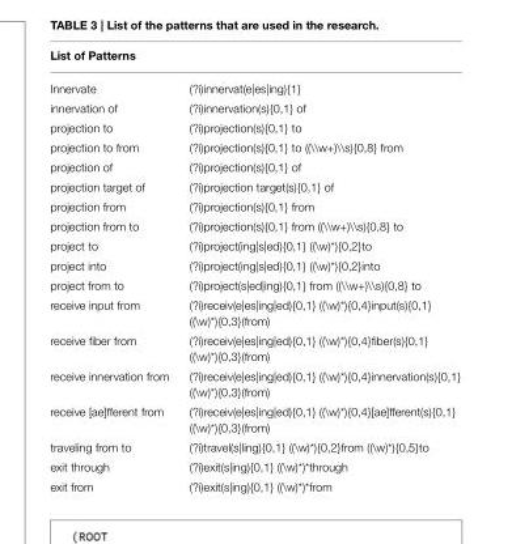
<table><thead><tr><td colspan="2">List of Patterns</td></tr><tr><td>Innervate</td><td>(?i)innervat(e|es|ing){1}</td></tr></thead><tbody><tr><td>innervation of</td><td>(?i)innervation(s){0,1} of</td></tr><tr><td>projection to</td><td>(?i)projection(s){0,1} to</td></tr><tr><td>projection to from</td><td>(?i)projection(s){0,1} to ((\\w+)\\s){0,8} from</td></tr><tr><td>projection of</td><td>(?i)projection(s){0,1} of</td></tr><tr><td>projection target of</td><td>(?i)projection target(s){0,1} of</td></tr><tr><td>projection from</td><td>(?i)projection(s){0,1} from</td></tr><tr><td>projection from to</td><td>(?i)projection(s){0,1} from ((\\w+)\\s){0,8} to</td></tr><tr><td>project to</td><td>(?i)project(ing|s|ed){0,1} ((\w)*){0,2}to</td></tr><tr><td>project into</td><td>(?i)project(ing|s|ed){0,1} ((\w)*){0,2}into</td></tr><tr><td>project from to</td><td>(?i)project(s|ed|ing){0,1} from ((\\w+)\\s){0,8} to</td></tr><tr><td>receive input from</td><td>(?i)receiv(e|es|ing|ed){0,1} ((\w)*){0,4}input(s){0,1} ((\w)*){0,3}(from)</td></tr><tr><td>receive fiber from</td><td>(?i)receiv(e|es|ing|ed){0,1} ((\w)*){0,4}fiber(s){0,1} ((\w)*){0,3}(from)</td></tr><tr><td>receive innervation from</td><td>(?i)receiv(e|es|ing|ed){0,1} ((\w)*){0,4}innervation(s){0,1} ((\w)*){0,3}(from)</td></tr><tr><td>receive [ae]fferent from</td><td>(?i)receiv(e|es|ing|ed){0,1} ((\w)*){0,4}[ae]fferent(s){0,1} ((\w)*){0,3}(from)</td></tr><tr><td>traveling from to</td><td>(?i)travel(s|ling){0,1} ((\w)*){0,2}from ((\w)*){0,5}to</td></tr><tr><td>exit through</td><td>(?i)exit(s|ing){0,1} ((\w)*)*through</td></tr><tr><td>exit from</td><td>(?i)exit(s|ing){0,1} ((\w)*)*from</td></tr></tbody></table>